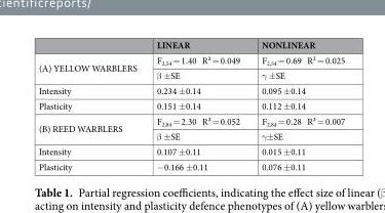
<table><thead><tr><td></td><td>LINEAR</td><td>NONLINEAR</td></tr></thead><tbody><tr><td rowspan="2">(A) YELLOW WARBLERS</td><td>F<sub>2,54</sub> = 1.40 R² = 0.049</td><td>F<sub>2,54</sub> = 0.69 R² = 0.025</td></tr><tr><td>β ±SE</td><td>γ ±SE</td></tr><tr><td>Intensity</td><td>0.234 ±0.14</td><td>0.095 ±0.14</td></tr><tr><td>Plasticity</td><td>0.151 ±0.14</td><td>0.112 ±0.14</td></tr><tr><td rowspan="2">(B) REED WARBLERS</td><td>F<sub>2,84</sub> = 2.30 R² = 0.052</td><td>F<sub>2,84</sub> = 0.28 R² = 0.007</td></tr><tr><td>β ±SE</td><td>γ±SE</td></tr><tr><td>Intensity</td><td>0.107 ±0.11</td><td>0.015 ±0.11</td></tr><tr><td>Plasticity</td><td>−0.166 ±0.11</td><td>0.076 ±0.11</td></tr></tbody></table>